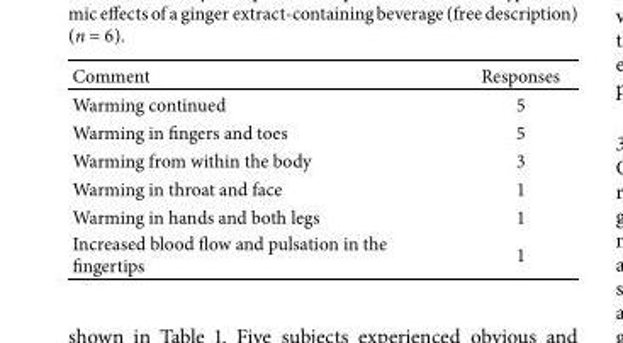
<table><thead><tr><td>Comment</td><td>Responses</td></tr></thead><tbody><tr><td>Warming continued</td><td>5</td></tr><tr><td>Warming in fingers and toes</td><td>5</td></tr><tr><td>Warming from within the body</td><td>3</td></tr><tr><td>Warming in throat and face</td><td>1</td></tr><tr><td>Warming in hands and both legs</td><td>1</td></tr><tr><td>Increased blood flow and pulsation in the fingertips</td><td>1</td></tr></tbody></table>